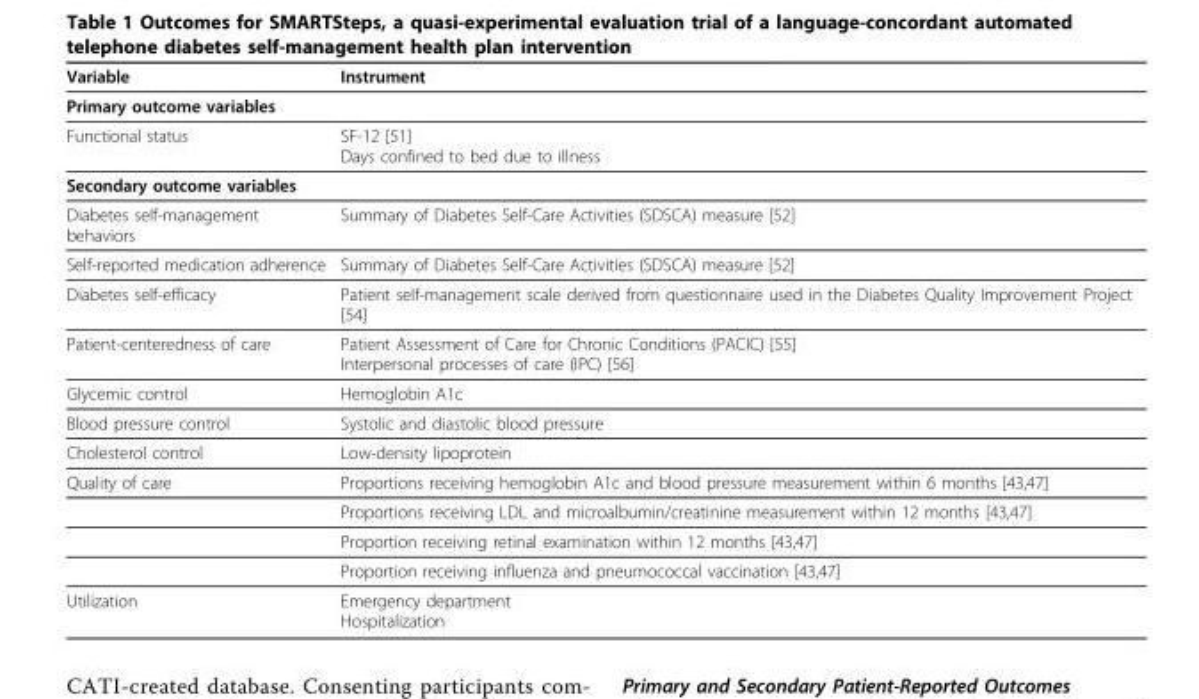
<table><thead><tr><td>Variable</td><td>Instrument</td></tr></thead><tbody><tr><td colspan="2">Primary outcome variables</td></tr><tr><td>Functional status</td><td>SF-12 [51] Days confined to bed due to illness</td></tr><tr><td colspan="2">Secondary outcome variables</td></tr><tr><td>Diabetes self-management behaviors</td><td>Summary of Diabetes Self-Care Activities (SDSCA) measure [52]</td></tr><tr><td>Self-reported medication adherence</td><td>Summary of Diabetes Self-Care Activities (SDSCA) measure [52]</td></tr><tr><td>Diabetes self-efficacy</td><td>Patient self-management scale derived from questionnaire used in the Diabetes Quality Improvement Project [54]</td></tr><tr><td>Patient-centeredness of care</td><td>Patient Assessment of Care for Chronic Conditions (PACIC) [55] Interpersonal processes of care (IPC) [56]</td></tr><tr><td>Glycemic control</td><td>Hemoglobin A1c</td></tr><tr><td>Blood pressure control</td><td>Systolic and diastolic blood pressure</td></tr><tr><td>Cholesterol control</td><td>Low-density lipoprotein</td></tr><tr><td rowspan="4">Quality of care</td><td>Proportions receiving hemoglobin A1c and blood pressure measurement within 6 months [43,47]</td></tr><tr><td>Proportions receiving LDL and microalbumin/creatinine measurement within 12 months [43,47]</td></tr><tr><td>Proportion receiving retinal examination within 12 months [43,47]</td></tr><tr><td>Proportion receiving influenza and pneumococcal vaccination [43,47]</td></tr><tr><td>Utilization</td><td>Emergency department Hospitalization</td></tr></tbody></table>